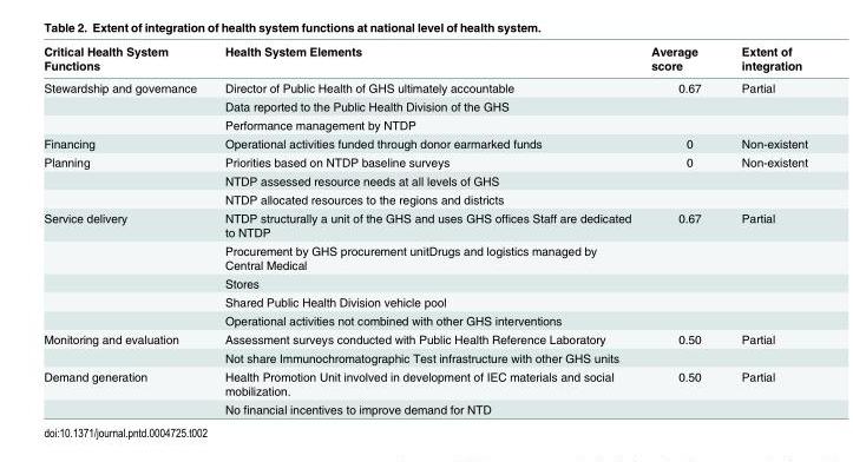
<table><thead><tr><td>Critical Health System Functions</td><td>Health System Elements</td><td>Average score</td><td>Extent of integration</td></tr></thead><tbody><tr><td rowspan="3">Stewardship and governance</td><td>Director of Public Health of GHS ultimately accountable</td><td>0.67</td><td>Partial</td></tr><tr><td>Data reported to the Public Health Division of the GHS</td><td></td><td></td></tr><tr><td>Performance management by NTDP</td><td></td><td></td></tr><tr><td>Financing</td><td>Operational activities funded through donor earmarked funds</td><td>0</td><td>Non-existent</td></tr><tr><td rowspan="3">Planning</td><td>Priorities based on NTDP baseline surveys</td><td>0</td><td>Non-existent</td></tr><tr><td>NTDP assessed resource needs at all levels of GHS</td><td></td><td></td></tr><tr><td>NTDP allocated resources to the regions and districts</td><td></td><td></td></tr><tr><td rowspan="5">Service delivery</td><td>NTDP structurally a unit of the GHS and uses GHS offices Staff are dedicated to NTDP</td><td>0.67</td><td>Partial</td></tr><tr><td>Procurement by GHS procurement unitDrugs and logistics managed by Central Medical</td><td></td><td></td></tr><tr><td>Stores</td><td></td><td></td></tr><tr><td>Shared Public Health Division vehicle pool</td><td></td><td></td></tr><tr><td>Operational activities not combined with other GHS interventions</td><td></td><td></td></tr><tr><td rowspan="2">Monitoring and evaluation</td><td>Assessment surveys conducted with Public Health Reference Laboratory</td><td>0.50</td><td>Partial</td></tr><tr><td>Not share Immunochromatographic Test infrastructure with other GHS units</td><td></td><td></td></tr><tr><td rowspan="2">Demand generation</td><td>Health Promotion Unit involved in development of IEC materials and social mobilization.</td><td>0.50</td><td>Partial</td></tr><tr><td>No financial incentives to improve demand for NTD</td><td></td><td></td></tr></tbody></table>